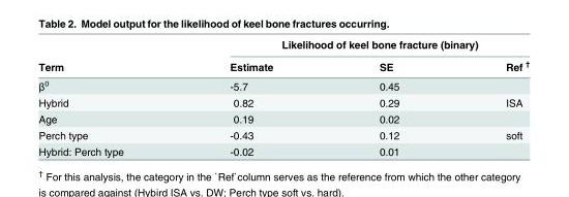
<table><thead><tr><td rowspan="2">Term</td><td colspan="3">Likelihood of keel bone fracture (binary)</td></tr><tr><td>Estimate</td><td>SE</td><td>Ref <sup>†</sup></td></tr></thead><tbody><tr><td>β<sup>0</sup></td><td>-5.7</td><td>0.45</td><td></td></tr><tr><td>Hybrid</td><td>0.82</td><td>0.29</td><td>ISA</td></tr><tr><td>Age</td><td>0.19</td><td>0.02</td><td></td></tr><tr><td>Perch type</td><td>-0.43</td><td>0.12</td><td>soft</td></tr><tr><td>Hybrid: Perch type</td><td>-0.02</td><td>0.01</td><td></td></tr></tbody></table>